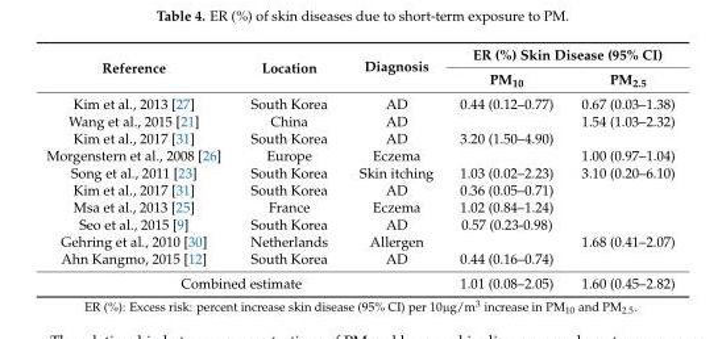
<table><thead><tr><td rowspan="2">Reference</td><td rowspan="2">Location</td><td rowspan="2">Diagnosis</td><td colspan="2">ER (%) Skin Disease (95% CI)</td></tr><tr><td>PM<sub>10</sub></td><td>PM<sub>2.5</sub></td></tr></thead><tbody><tr><td>Kim et al., 2013 [27]</td><td>South Korea</td><td>AD</td><td>0.44 (0.12–0.77)</td><td>0.67 (0.03–1.38)</td></tr><tr><td>Wang et al., 2015 [21]</td><td>China</td><td>AD</td><td></td><td>1.54 (1.03–2.32)</td></tr><tr><td>Kim et al., 2017 [31]</td><td>South Korea</td><td>AD</td><td>3.20 (1.50–4.90)</td><td></td></tr><tr><td>Morgenstern et al., 2008 [26]</td><td>Europe</td><td>Eczema</td><td></td><td>1.00 (0.97–1.04)</td></tr><tr><td>Song et al., 2011 [23]</td><td>South Korea</td><td>Skin itching</td><td>1.03 (0.02–2.23)</td><td>3.10 (0.20–6.10)</td></tr><tr><td>Kim et al., 2017 [31]</td><td>South Korea</td><td>AD</td><td>0.36 (0.05–0.71)</td><td></td></tr><tr><td>Msa et al., 2013 [25]</td><td>France</td><td>Eczema</td><td>1.02 (0.84–1.24)</td><td></td></tr><tr><td>Seo et al., 2015 [9]</td><td>South Korea</td><td>AD</td><td>0.57 (0.23-0.98)</td><td></td></tr><tr><td>Gehring et al., 2010 [30]</td><td>Netherlands</td><td>Allergen</td><td></td><td>1.68 (0.41–2.07)</td></tr><tr><td>Ahn Kangmo, 2015 [12]</td><td>South Korea</td><td>AD</td><td>0.44 (0.16–0.74)</td><td></td></tr><tr><td colspan="3">Combined estimate</td><td>1.01 (0.08–2.05)</td><td>1.60 (0.45–2.82)</td></tr></tbody></table>